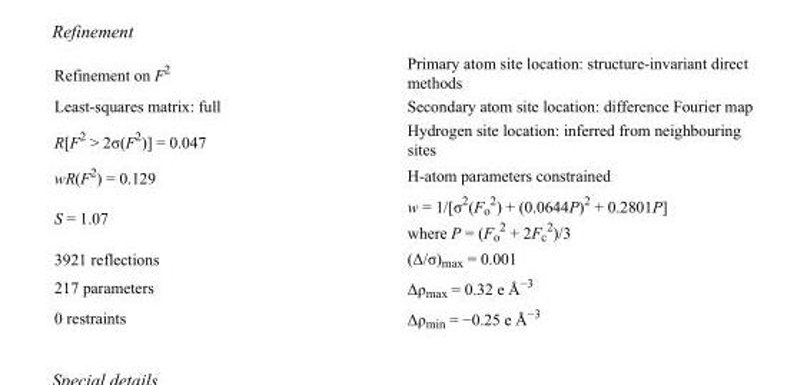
<table><tbody><tr><td>Refinement on F<sup>2</sup></td><td>Primary atom site location: structure-invariant direct methods</td></tr><tr><td>Least-squares matrix: full</td><td>Secondary atom site location: difference Fourier map</td></tr><tr><td>R[F<sup>2</sup> &gt; 2σ(F<sup>2</sup>)] = 0.047</td><td>Hydrogen site location: inferred from neighbouring sites</td></tr><tr><td>wR(F<sup>2</sup>) = 0.129</td><td>H-atom parameters constrained</td></tr><tr><td>S = 1.07</td><td>w = 1/[σ<sup>2</sup>(F<sub>o</sub> <sup>2</sup>) + (0.0644P)<sup>2</sup> + 0.2801P] where P = (F<sub>o</sub> <sup>2</sup> + 2F<sub>c</sub> <sup>2</sup>)/3</td></tr><tr><td>3921 reflections</td><td>(Δ/σ)<sub>max</sub> = 0.001</td></tr><tr><td>217 parameters</td><td>Δρ<sub>max</sub> = 0.32 e Å<sup>−3</sup></td></tr><tr><td>0 restraints</td><td>Δρ<sub>min</sub> = −0.25 e Å<sup>−3</sup></td></tr></tbody></table>